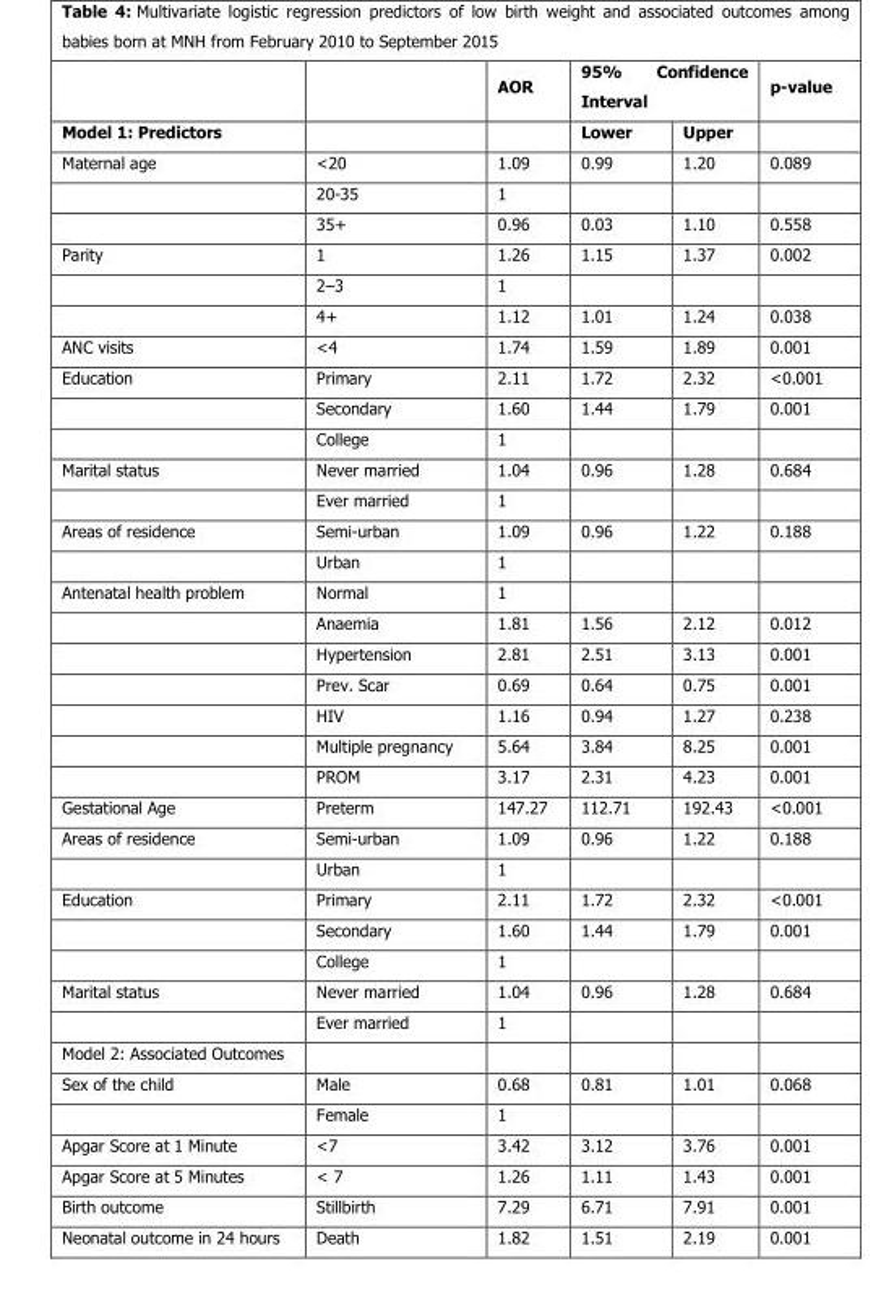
<table><thead><tr><td rowspan="2">Model 1: Predictors</td><td rowspan="2"></td><td rowspan="2">AOR</td><td colspan="2">95% Confidence Interval</td><td rowspan="2">p-value</td></tr><tr><td>Lower</td><td>Upper</td></tr></thead><tbody><tr><td rowspan="3">Maternal age</td><td>&lt;20</td><td>1.09</td><td>0.99</td><td>1.20</td><td>0.089</td></tr><tr><td>20-35</td><td>1</td><td></td><td></td><td></td></tr><tr><td>35+</td><td>0.96</td><td>0.03</td><td>1.10</td><td>0.558</td></tr><tr><td rowspan="3">Parity</td><td>1</td><td>1.26</td><td>1.15</td><td>1.37</td><td>0.002</td></tr><tr><td>2–3</td><td>1</td><td></td><td></td><td></td></tr><tr><td>4+</td><td>1.12</td><td>1.01</td><td>1.24</td><td>0.038</td></tr><tr><td>ANC visits</td><td>&lt;4</td><td>1.74</td><td>1.59</td><td>1.89</td><td>0.001</td></tr><tr><td rowspan="3">Education</td><td>Primary</td><td>2.11</td><td>1.72</td><td>2.32</td><td>&lt;0.001</td></tr><tr><td>Secondary</td><td>1.60</td><td>1.44</td><td>1.79</td><td>0.001</td></tr><tr><td>College</td><td>1</td><td></td><td></td><td></td></tr><tr><td rowspan="2">Marital status</td><td>Never married</td><td>1.04</td><td>0.96</td><td>1.28</td><td>0.684</td></tr><tr><td>Ever married</td><td>1</td><td></td><td></td><td></td></tr><tr><td rowspan="2">Areas of residence</td><td>Semi-urban</td><td>1.09</td><td>0.96</td><td>1.22</td><td>0.188</td></tr><tr><td>Urban</td><td>1</td><td></td><td></td><td></td></tr><tr><td rowspan="7">Antenatal health problem</td><td>Normal</td><td>1</td><td></td><td></td><td></td></tr><tr><td>Anaemia</td><td>1.81</td><td>1.56</td><td>2.12</td><td>0.012</td></tr><tr><td>Hypertension</td><td>2.81</td><td>2.51</td><td>3.13</td><td>0.001</td></tr><tr><td>Prev. Scar</td><td>0.69</td><td>0.64</td><td>0.75</td><td>0.001</td></tr><tr><td>HIV</td><td>1.16</td><td>0.94</td><td>1.27</td><td>0.238</td></tr><tr><td>Multiple pregnancy</td><td>5.64</td><td>3.84</td><td>8.25</td><td>0.001</td></tr><tr><td>PROM</td><td>3.17</td><td>2.31</td><td>4.23</td><td>0.001</td></tr><tr><td>Gestational Age</td><td>Preterm</td><td>147.27</td><td>112.71</td><td>192.43</td><td>&lt;0.001</td></tr><tr><td rowspan="2">Areas of residence</td><td>Semi-urban</td><td>1.09</td><td>0.96</td><td>1.22</td><td>0.188</td></tr><tr><td>Urban</td><td>1</td><td></td><td></td><td></td></tr><tr><td rowspan="3">Education</td><td>Primary</td><td>2.11</td><td>1.72</td><td>2.32</td><td>&lt;0.001</td></tr><tr><td>Secondary</td><td>1.60</td><td>1.44</td><td>1.79</td><td>0.001</td></tr><tr><td>College</td><td>1</td><td></td><td></td><td></td></tr><tr><td rowspan="2">Marital status</td><td>Never married</td><td>1.04</td><td>0.96</td><td>1.28</td><td>0.684</td></tr><tr><td>Ever married</td><td>1</td><td></td><td></td><td></td></tr><tr><td colspan="6">Model 2: Associated Outcomes</td></tr><tr><td rowspan="2">Sex of the child</td><td>Male</td><td>0.68</td><td>0.81</td><td>1.01</td><td>0.068</td></tr><tr><td>Female</td><td>1</td><td></td><td></td><td></td></tr><tr><td>Apgar Score at 1 Minute</td><td>&lt;7</td><td>3.42</td><td>3.12</td><td>3.76</td><td>0.001</td></tr><tr><td>Apgar Score at 5 Minutes</td><td>&lt; 7</td><td>1.26</td><td>1.11</td><td>1.43</td><td>0.001</td></tr><tr><td>Birth outcome</td><td>Stillbirth</td><td>7.29</td><td>6.71</td><td>7.91</td><td>0.001</td></tr><tr><td>Neonatal outcome in 24 hours</td><td>Death</td><td>1.82</td><td>1.51</td><td>2.19</td><td>0.001</td></tr></tbody></table>